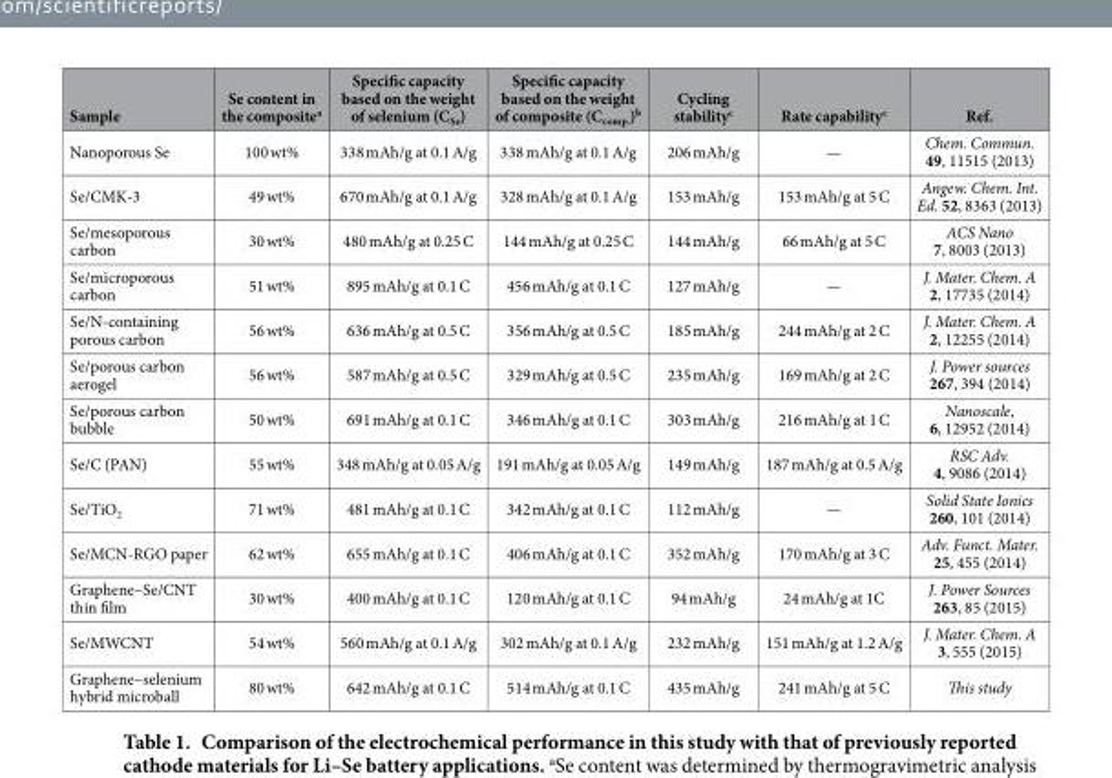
<table><thead><tr><td>Sample</td><td>Se content in the composite<sup>a</sup></td><td>Specific capacity based on the weight of selenium (C<sub>Se</sub>)</td><td>Specific capacity based on the weight of composite (C<sub>comp.</sub>)<sup>b</sup></td><td>Cycling stability<sup>c</sup></td><td>Rate capability<sup>c</sup></td><td>Ref.</td></tr></thead><tbody><tr><td>Nanoporous Se</td><td>100 wt%</td><td>338 mAh/g at 0.1 A/g</td><td>338 mAh/g at 0.1 A/g</td><td>206 mAh/g</td><td>—</td><td>Chem. Commun. 49, 11515 (2013)</td></tr><tr><td>Se/CMK-3</td><td>49 wt%</td><td>670 mAh/g at 0.1 A/g</td><td>328 mAh/g at 0.1 A/g</td><td>153 mAh/g</td><td>153 mAh/g at 5 C</td><td>Angew. Chem. Int. Ed. 52, 8363 (2013)</td></tr><tr><td>Se/mesoporous carbon</td><td>30 wt%</td><td>480 mAh/g at 0.25 C</td><td>144 mAh/g at 0.25 C</td><td>144 mAh/g</td><td>66 mAh/g at 5 C</td><td>ACS Nano 7, 8003 (2013)</td></tr><tr><td>Se/microporous carbon</td><td>51 wt%</td><td>895 mAh/g at 0.1 C</td><td>456 mAh/g at 0.1 C</td><td>127 mAh/g</td><td>—</td><td>J. Mater. Chem. A 2, 17735 (2014)</td></tr><tr><td>Se/N-containing porous carbon</td><td>56 wt%</td><td>636 mAh/g at 0.5 C</td><td>356 mAh/g at 0.5 C</td><td>185 mAh/g</td><td>244 mAh/g at 2 C</td><td>J. Mater. Chem. A 2, 12255 (2014)</td></tr><tr><td>Se/porous carbon aerogel</td><td>56 wt%</td><td>587 mAh/g at 0.5 C</td><td>329 mAh/g at 0.5 C</td><td>235 mAh/g</td><td>169 mAh/g at 2 C</td><td>J. Power sources 267, 394 (2014)</td></tr><tr><td>Se/porous carbon bubble</td><td>50 wt%</td><td>691 mAh/g at 0.1 C</td><td>346 mAh/g at 0.1 C</td><td>303 mAh/g</td><td>216 mAh/g at 1 C</td><td>Nanoscale, 6, 12952 (2014)</td></tr><tr><td>Se/C (PAN)</td><td>55 wt%</td><td>348 mAh/g at 0.05 A/g</td><td>191 mAh/g at 0.05 A/g</td><td>149 mAh/g</td><td>187 mAh/g at 0.5 A/g</td><td>RSC Adv. 4, 9086 (2014)</td></tr><tr><td>Se/TiO<sub>2</sub></td><td>71 wt%</td><td>481 mAh/g at 0.1 C</td><td>342 mAh/g at 0.1 C</td><td>112 mAh/g</td><td>—</td><td>Solid State Ionics 260, 101 (2014)</td></tr><tr><td>Se/MCN-RGO paper</td><td>62 wt%</td><td>655 mAh/g at 0.1 C</td><td>406 mAh/g at 0.1 C</td><td>352 mAh/g</td><td>170 mAh/g at 3 C</td><td>Adv. Funct. Mater. 25, 455 (2014)</td></tr><tr><td>Graphene–Se/CNT thin film</td><td>30 wt%</td><td>400 mAh/g at 0.1 C</td><td>120 mAh/g at 0.1 C</td><td>94 mAh/g</td><td>24 mAh/g at 1C</td><td>J. Power Sources 263, 85 (2015)</td></tr><tr><td>Se/MWCNT</td><td>54 wt%</td><td>560 mAh/g at 0.1 A/g</td><td>302 mAh/g at 0.1 A/g</td><td>232 mAh/g</td><td>151 mAh/g at 1.2 A/g</td><td>J. Mater. Chem. A 3, 555 (2015)</td></tr><tr><td>Graphene–selenium hybrid microball</td><td>80 wt%</td><td>642 mAh/g at 0.1 C</td><td>514 mAh/g at 0.1 C</td><td>435 mAh/g</td><td>241 mAh/g at 5 C</td><td>This study</td></tr></tbody></table>